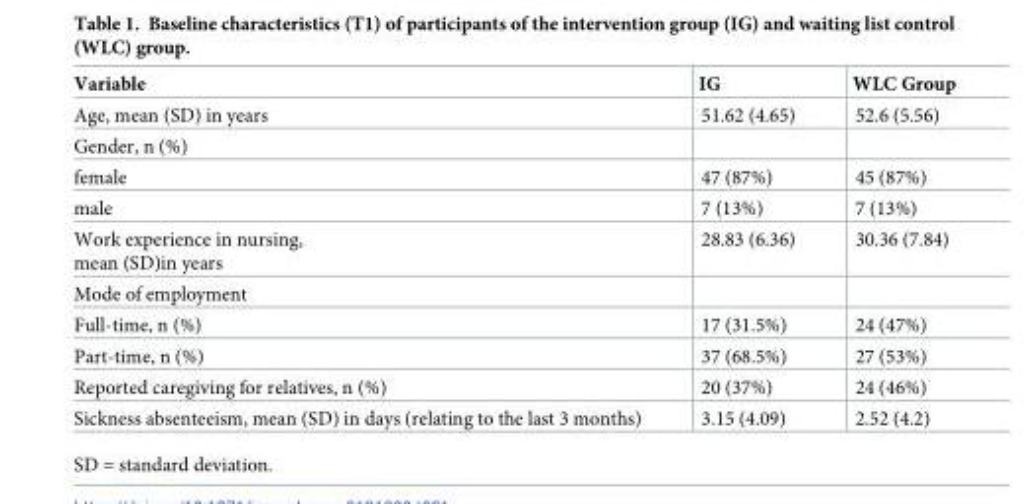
<table><thead><tr><td>Variable</td><td>IG</td><td>WLC Group</td></tr></thead><tbody><tr><td>Age, mean (SD) in years</td><td>51.62 (4.65)</td><td>52.6 (5.56)</td></tr><tr><td colspan="3">Gender, n (%)</td></tr><tr><td>female</td><td>47 (87%)</td><td>45 (87%)</td></tr><tr><td>male</td><td>7 (13%)</td><td>7 (13%)</td></tr><tr><td>Work experience in nursing, mean (SD)in years</td><td>28.83 (6.36)</td><td>30.36 (7.84)</td></tr><tr><td colspan="3">Mode of employment</td></tr><tr><td>Full-time, n (%)</td><td>17 (31.5%)</td><td>24 (47%)</td></tr><tr><td>Part-time, n (%)</td><td>37 (68.5%)</td><td>27 (53%)</td></tr><tr><td>Reported caregiving for relatives, n (%)</td><td>20 (37%)</td><td>24 (46%)</td></tr><tr><td>Sickness absenteeism, mean (SD) in days (relating to the last 3 months)</td><td>3.15 (4.09)</td><td>2.52 (4.2)</td></tr></tbody></table>